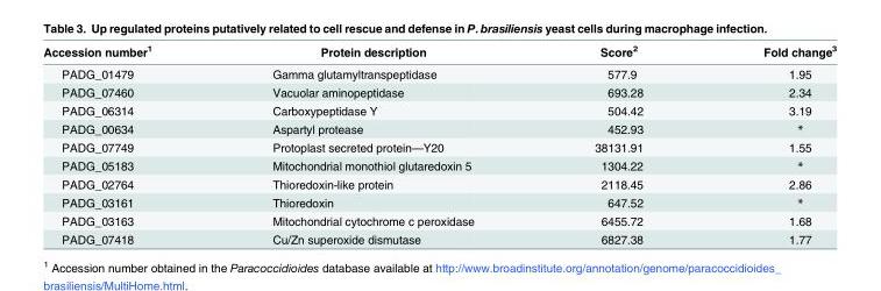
<table><thead><tr><td>Accession number<sup>1</sup></td><td>Protein description</td><td>Score<sup>2</sup></td><td>Fold change<sup>3</sup></td></tr></thead><tbody><tr><td>PADG_01479</td><td>Gamma glutamyltranspeptidase</td><td>577.9</td><td>1.95</td></tr><tr><td>PADG_07460</td><td>Vacuolar aminopeptidase</td><td>693.28</td><td>2.34</td></tr><tr><td>PADG_06314</td><td>Carboxypeptidase Y</td><td>504.42</td><td>3.19</td></tr><tr><td>PADG_00634</td><td>Aspartyl protease</td><td>452.93</td><td>*</td></tr><tr><td>PADG_07749</td><td>Protoplast secreted protein—Y20</td><td>38131.91</td><td>1.55</td></tr><tr><td>PADG_05183</td><td>Mitochondrial monothiol glutaredoxin 5</td><td>1304.22</td><td>*</td></tr><tr><td>PADG_02764</td><td>Thioredoxin-like protein</td><td>2118.45</td><td>2.86</td></tr><tr><td>PADG_03161</td><td>Thioredoxin</td><td>647.52</td><td>*</td></tr><tr><td>PADG_03163</td><td>Mitochondrial cytochrome c peroxidase</td><td>6455.72</td><td>1.68</td></tr><tr><td>PADG_07418</td><td>Cu/Zn superoxide dismutase</td><td>6827.38</td><td>1.77</td></tr></tbody></table>